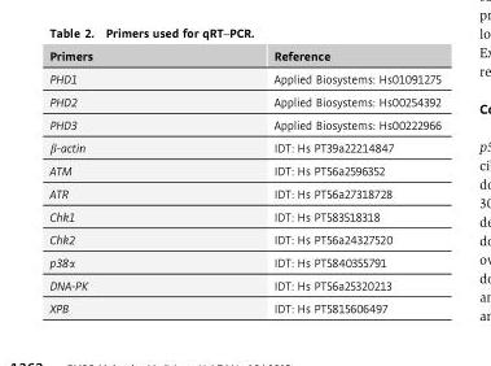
<table><thead><tr><td>Primers</td><td>Reference</td></tr></thead><tbody><tr><td>PHD1</td><td>Applied Biosystems: Hs01091275</td></tr><tr><td>PHD2</td><td>Applied Biosystems: Hs00254392</td></tr><tr><td>PHD3</td><td>Applied Biosystems: Hs00222966</td></tr><tr><td>β-actin</td><td>IDT: Hs PT39a22214847</td></tr><tr><td>ATM</td><td>IDT: Hs PT56a2596352</td></tr><tr><td>ATR</td><td>IDT: Hs PT56a27318728</td></tr><tr><td>Chk1</td><td>IDT: Hs PT583518318</td></tr><tr><td>Chk2</td><td>IDT: Hs PT56a24327520</td></tr><tr><td>p38α</td><td>IDT: Hs PT5840355791</td></tr><tr><td>DNA-PK</td><td>IDT: Hs PT56a25320213</td></tr><tr><td>XPB</td><td>IDT: Hs PT5815606497</td></tr></tbody></table>